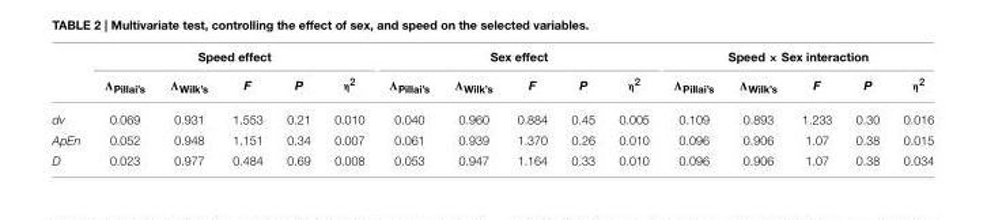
<table><thead><tr><td rowspan="2"></td><td colspan="5">Speed effect</td><td colspan="5">Sex effect</td><td colspan="5">Speed × Sex interaction</td></tr><tr><td>Λ<sub>Pillai’s</sub></td><td>Λ<sub>Wilk’s</sub></td><td>F</td><td>P</td><td>η<sup>2</sup></td><td>Λ<sub>Pillai’s</sub></td><td>Λ<sub>Wilk’s</sub></td><td>F</td><td>P</td><td>η<sup>2</sup></td><td>Λ<sub>Pillai’s</sub></td><td>Λ<sub>Wilk’s</sub></td><td>F</td><td>P</td><td>η<sup>2</sup></td></tr></thead><tbody><tr><td>dv</td><td>0.069</td><td>0.931</td><td>1.553</td><td>0.21</td><td>0.010</td><td>0.040</td><td>0.960</td><td>0.884</td><td>0.45</td><td>0.005</td><td>0.109</td><td>0.893</td><td>1.233</td><td>0.30</td><td>0.016</td></tr><tr><td>ApEn</td><td>0.052</td><td>0.948</td><td>1.151</td><td>0.34</td><td>0.007</td><td>0.061</td><td>0.939</td><td>1.370</td><td>0.26</td><td>0.010</td><td>0.096</td><td>0.906</td><td>1.07</td><td>0.38</td><td>0.015</td></tr><tr><td>D</td><td>0.023</td><td>0.977</td><td>0.484</td><td>0.69</td><td>0.008</td><td>0.053</td><td>0.947</td><td>1.164</td><td>0.33</td><td>0.010</td><td>0.096</td><td>0.906</td><td>1.07</td><td>0.38</td><td>0.034</td></tr></tbody></table>